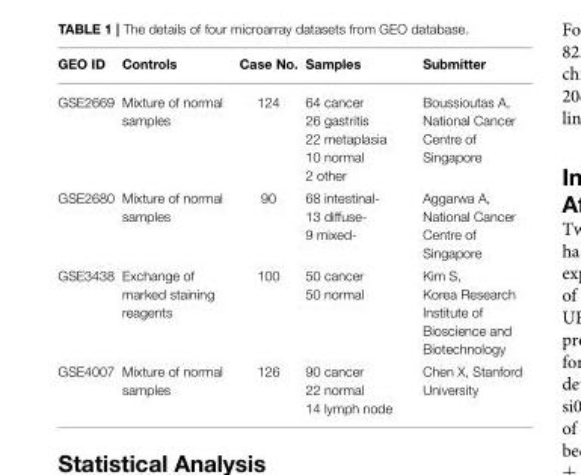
<table><thead><tr><td>GEO ID</td><td>Controls</td><td>Case No.</td><td>Samples</td><td>Submitter</td></tr></thead><tbody><tr><td>GSE2669</td><td>Mixture of normal samples</td><td>124</td><td>64 cancer 26 gastritis 22 metaplasia 10 normal 2 other</td><td>Boussioutas A, National Cancer Centre of Singapore</td></tr><tr><td>GSE2680</td><td>Mixture of normal samples</td><td>90</td><td>68 intestinal- 13 diffuse- 9 mixed-</td><td>Aggarwa A, National Cancer Centre of Singapore</td></tr><tr><td>GSE3438</td><td>Exchange of marked staining reagents</td><td>100</td><td>50 cancer 50 normal</td><td>Kim S, Korea Research Institute of Bioscience and Biotechnology</td></tr><tr><td>GSE4007</td><td>Mixture of normal samples</td><td>126</td><td>90 cancer 22 normal 14 lymph node</td><td>Chen X, Stanford University</td></tr></tbody></table>